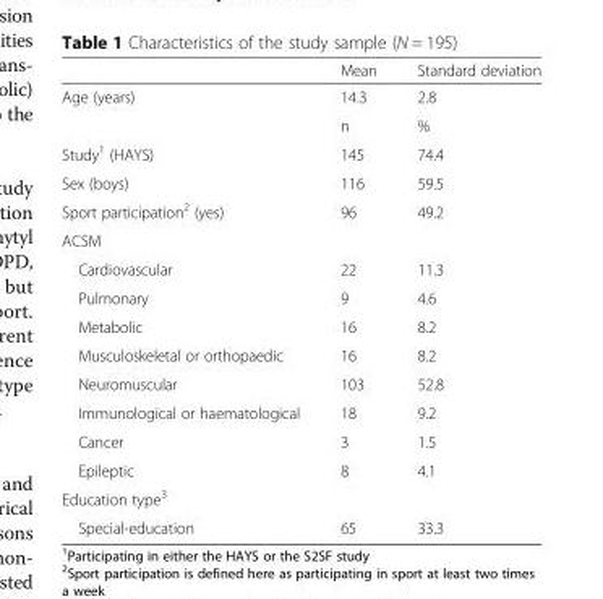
<table><thead><tr><td></td><td>Mean</td><td>Standard deviation</td></tr></thead><tbody><tr><td rowspan="2">Age (years)</td><td>14.3</td><td>2.8</td></tr><tr><td>n</td><td>%</td></tr><tr><td>Study<sup>1</sup> (HAYS)</td><td>145</td><td>74.4</td></tr><tr><td>Sex (boys)</td><td>116</td><td>59.5</td></tr><tr><td>Sport participation<sup>2</sup> (yes)</td><td>96</td><td>49.2</td></tr><tr><td colspan="3">ACSM</td></tr><tr><td>Cardiovascular</td><td>22</td><td>11.3</td></tr><tr><td>Pulmonary</td><td>9</td><td>4.6</td></tr><tr><td>Metabolic</td><td>16</td><td>8.2</td></tr><tr><td>Musculoskeletal or orthopaedic</td><td>16</td><td>8.2</td></tr><tr><td>Neuromuscular</td><td>103</td><td>52.8</td></tr><tr><td>Immunological or haematological</td><td>18</td><td>9.2</td></tr><tr><td>Cancer</td><td>3</td><td>1.5</td></tr><tr><td>Epileptic</td><td>8</td><td>4.1</td></tr><tr><td colspan="3">Education type<sup>3</sup></td></tr><tr><td>Special-education</td><td>65</td><td>33.3</td></tr></tbody></table>